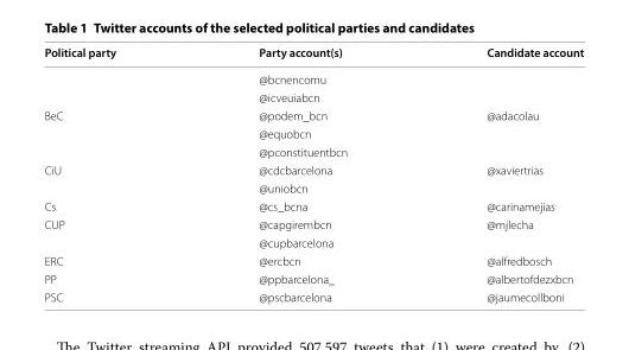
<table><thead><tr><td>Political party</td><td>Party account(s)</td><td>Candidate account</td></tr></thead><tbody><tr><td></td><td>@bcnencomu</td><td></td></tr><tr><td></td><td>@icveuiabcn</td><td></td></tr><tr><td rowspan="3">BeC</td><td>@podem_bcn</td><td>@adacolau</td></tr><tr><td>@equobcn</td><td></td></tr><tr><td>@pconstituentbcn</td><td></td></tr><tr><td rowspan="2">CiU</td><td>@cdcbarcelona</td><td>@xaviertrias</td></tr><tr><td>@uniobcn</td><td></td></tr><tr><td>Cs</td><td>@cs_bcna</td><td>@carinamejias</td></tr><tr><td rowspan="2">CUP</td><td>@capgirembcn</td><td>@mjlecha</td></tr><tr><td>@cupbarcelona</td><td></td></tr><tr><td>ERC</td><td>@ercbcn</td><td>@alfredbosch</td></tr><tr><td>PP</td><td>@ppbarcelona_</td><td>@albertofdezxbcn</td></tr><tr><td>PSC</td><td>@pscbarcelona</td><td>@jaumecollboni</td></tr></tbody></table>